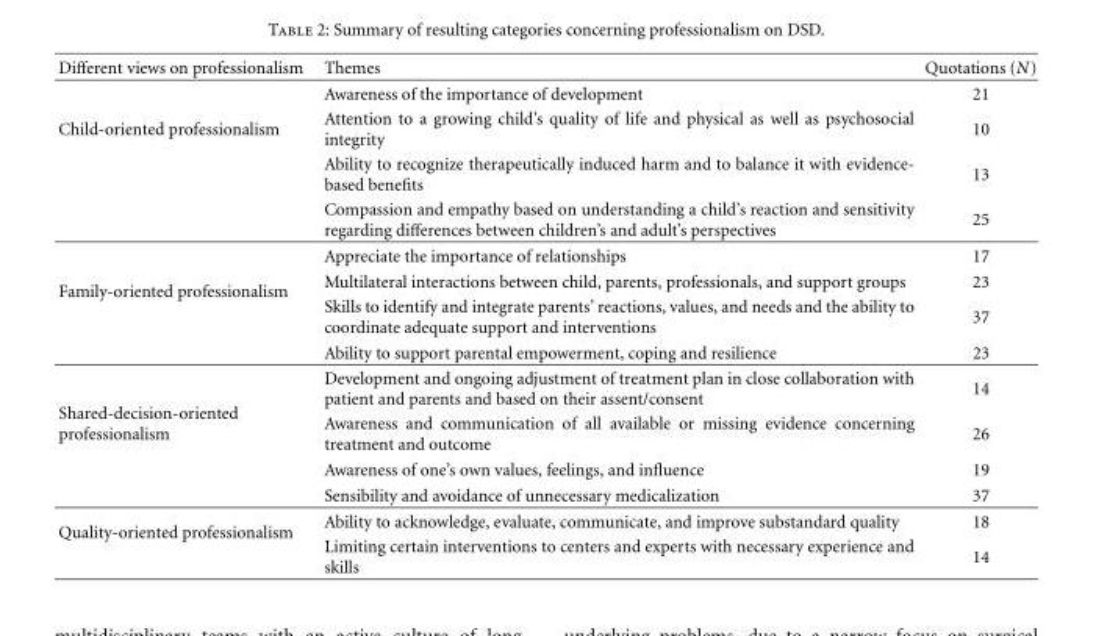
<table><thead><tr><td>Different views on professionalism</td><td>Themes</td><td>Quotations (N)</td></tr></thead><tbody><tr><td rowspan="4">Child-oriented professionalism</td><td>Awareness of the importance of development</td><td>21</td></tr><tr><td>Attention to a growing child’s quality of life and physical as well as psychosocial integrity</td><td>10</td></tr><tr><td>Ability to recognize therapeutically induced harm and to balance it with evidence- based benefits</td><td>13</td></tr><tr><td>Compassion and empathy based on understanding a child’s reaction and sensitivity regarding differences between children’s and adult’s perspectives</td><td>25</td></tr><tr><td rowspan="4">Family-oriented professionalism</td><td>Appreciate the importance of relationships</td><td>17</td></tr><tr><td>Multilateral interactions between child, parents, professionals, and support groups</td><td>23</td></tr><tr><td>Skills to identify and integrate parents’ reactions, values, and needs and the ability to coordinate adequate support and interventions</td><td>37</td></tr><tr><td>Ability to support parental empowerment, coping and resilience</td><td>23</td></tr><tr><td rowspan="4">Shared-decision-oriented professionalism</td><td>Development and ongoing adjustment of treatment plan in close collaboration with patient and parents and based on their assent/consent</td><td>14</td></tr><tr><td>Awareness and communication of all available or missing evidence concerning treatment and outcome</td><td>26</td></tr><tr><td>Awareness of one’s own values, feelings, and influence</td><td>19</td></tr><tr><td>Sensibility and avoidance of unnecessary medicalization</td><td>37</td></tr><tr><td rowspan="2">Quality-oriented professionalism</td><td>Ability to acknowledge, evaluate, communicate, and improve substandard quality</td><td>18</td></tr><tr><td>Limiting certain interventions to centers and experts with necessary experience and skills</td><td>14</td></tr></tbody></table>